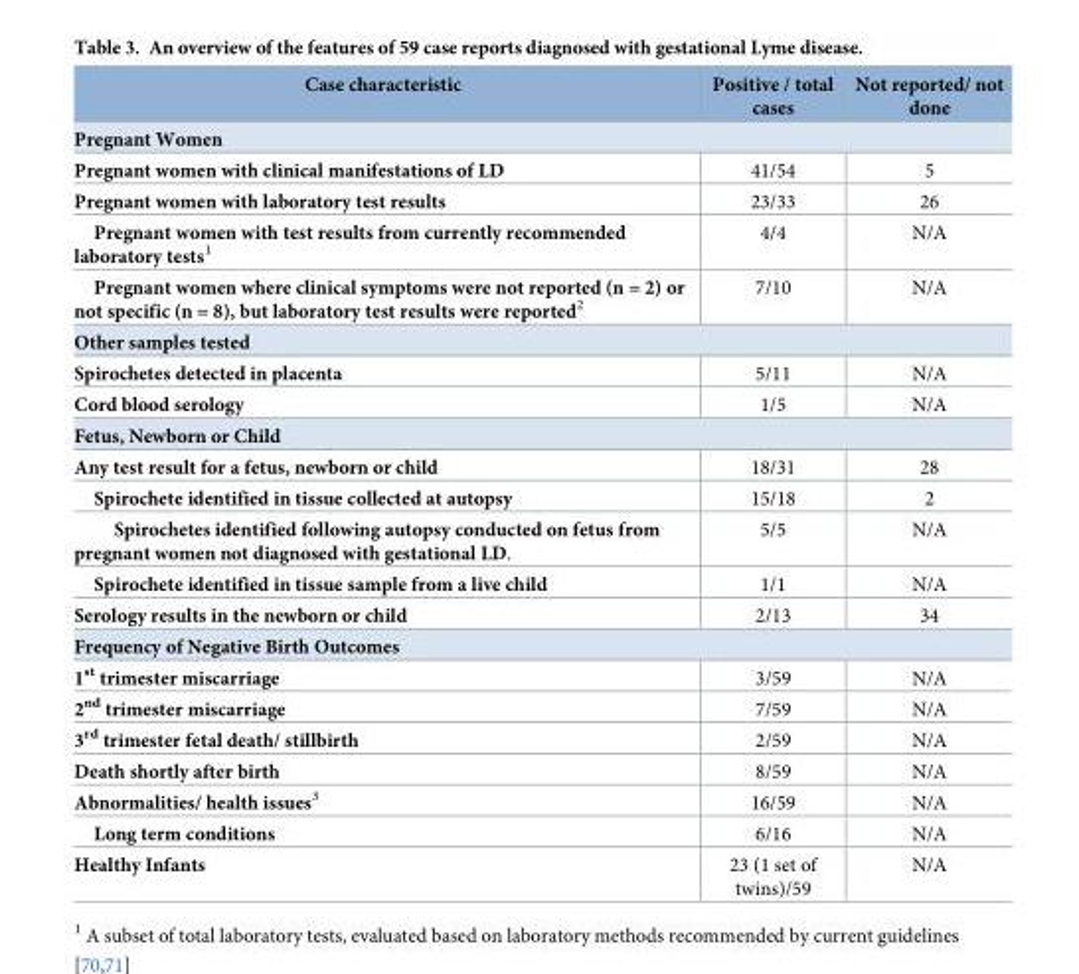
<table><thead><tr><td>Case characteristic</td><td>Positive / total cases</td><td>Not reported/ not done</td></tr></thead><tbody><tr><td colspan="3">Pregnant Women</td></tr><tr><td>Pregnant women with clinical manifestations of LD</td><td>41/54</td><td>5</td></tr><tr><td>Pregnant women with laboratory test results</td><td>23/33</td><td>26</td></tr><tr><td>Pregnant women with test results from currently recommended laboratory tests<sup>1</sup></td><td>4/4</td><td>N/A</td></tr><tr><td>Pregnant women where clinical symptoms were not reported (n = 2) or not specific (n = 8), but laboratory test results were reported<sup>2</sup></td><td>7/10</td><td>N/A</td></tr><tr><td colspan="3">Other samples tested</td></tr><tr><td>Spirochetes detected in placenta</td><td>5/11</td><td>N/A</td></tr><tr><td>Cord blood serology</td><td>1/5</td><td>N/A</td></tr><tr><td colspan="3">Fetus, Newborn or Child</td></tr><tr><td>Any test result for a fetus, newborn or child</td><td>18/31</td><td>28</td></tr><tr><td>Spirochete identified in tissue collected at autopsy</td><td>15/18</td><td>2</td></tr><tr><td>Spirochetes identified following autopsy conducted on fetus from pregnant women not diagnosed with gestational LD.</td><td>5/5</td><td>N/A</td></tr><tr><td>Spirochete identified in tissue sample from a live child</td><td>1/1</td><td>N/A</td></tr><tr><td>Serology results in the newborn or child</td><td>2/13</td><td>34</td></tr><tr><td colspan="3">Frequency of Negative Birth Outcomes</td></tr><tr><td>1<sup>st</sup> trimester miscarriage</td><td>3/59</td><td>N/A</td></tr><tr><td>2<sup>nd</sup> trimester miscarriage</td><td>7/59</td><td>N/A</td></tr><tr><td>3<sup>rd</sup> trimester fetal death/ stillbirth</td><td>2/59</td><td>N/A</td></tr><tr><td>Death shortly after birth</td><td>8/59</td><td>N/A</td></tr><tr><td>Abnormalities/ health issues<sup>3</sup></td><td>16/59</td><td>N/A</td></tr><tr><td>Long term conditions</td><td>6/16</td><td>N/A</td></tr><tr><td>Healthy Infants</td><td>23 (1 set of twins)/59</td><td>N/A</td></tr></tbody></table>